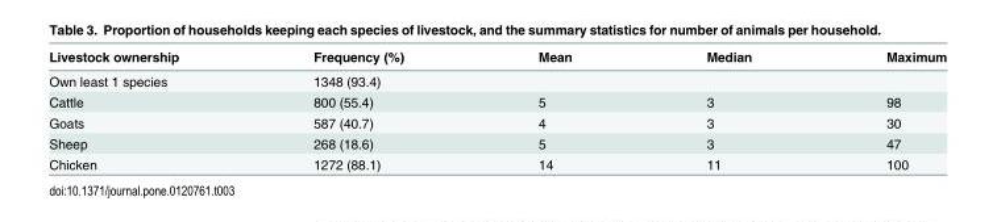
<table><thead><tr><td>Livestock ownership</td><td>Frequency (%)</td><td>Mean</td><td>Median</td><td>Maximum</td></tr></thead><tbody><tr><td>Own least 1 species</td><td>1348 (93.4)</td><td></td><td></td><td></td></tr><tr><td>Cattle</td><td>800 (55.4)</td><td>5</td><td>3</td><td>98</td></tr><tr><td>Goats</td><td>587 (40.7)</td><td>4</td><td>3</td><td>30</td></tr><tr><td>Sheep</td><td>268 (18.6)</td><td>5</td><td>3</td><td>47</td></tr><tr><td>Chicken</td><td>1272 (88.1)</td><td>14</td><td>11</td><td>100</td></tr></tbody></table>